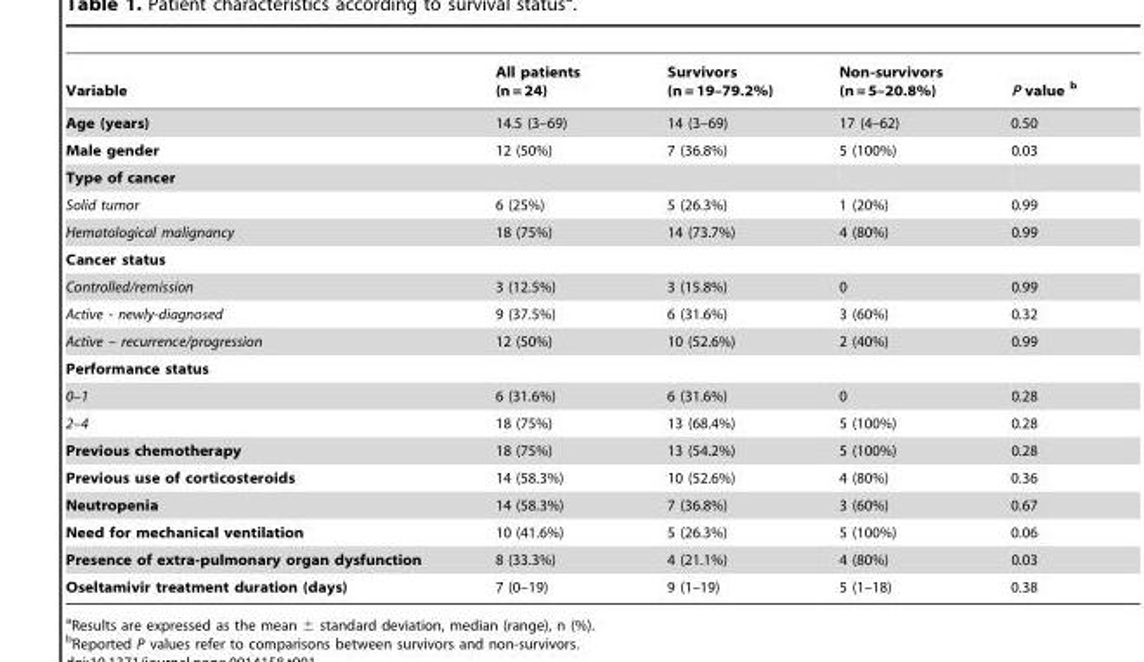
<table><thead><tr><td>Variable</td><td>All patients (n = 24)</td><td>Survivors (n = 19–79.2%)</td><td>Non-survivors (n = 5–20.8%)</td><td>P value b</td></tr></thead><tbody><tr><td>Age (years)</td><td>14.5 (3–69)</td><td>14 (3–69)</td><td>17 (4–62)</td><td>0.50</td></tr><tr><td>Male gender</td><td>12 (50%)</td><td>7 (36.8%)</td><td>5 (100%)</td><td>0.03</td></tr><tr><td colspan="5">Type of cancer</td></tr><tr><td>Solid tumor</td><td>6 (25%)</td><td>5 (26.3%)</td><td>1 (20%)</td><td>0.99</td></tr><tr><td>Hematological malignancy</td><td>18 (75%)</td><td>14 (73.7%)</td><td>4 (80%)</td><td>0.99</td></tr><tr><td colspan="5">Cancer status</td></tr><tr><td>Controlled/remission</td><td>3 (12.5%)</td><td>3 (15.8%)</td><td>0</td><td>0.99</td></tr><tr><td>Active - newly-diagnosed</td><td>9 (37.5%)</td><td>6 (31.6%)</td><td>3 (60%)</td><td>0.32</td></tr><tr><td>Active – recurrence/progression</td><td>12 (50%)</td><td>10 (52.6%)</td><td>2 (40%)</td><td>0.99</td></tr><tr><td colspan="5">Performance status</td></tr><tr><td>0–1</td><td>6 (31.6%)</td><td>6 (31.6%)</td><td>0</td><td>0.28</td></tr><tr><td>2–4</td><td>18 (75%)</td><td>13 (68.4%)</td><td>5 (100%)</td><td>0.28</td></tr><tr><td>Previous chemotherapy</td><td>18 (75%)</td><td>13 (54.2%)</td><td>5 (100%)</td><td>0.28</td></tr><tr><td>Previous use of corticosteroids</td><td>14 (58.3%)</td><td>10 (52.6%)</td><td>4 (80%)</td><td>0.36</td></tr><tr><td>Neutropenia</td><td>14 (58.3%)</td><td>7 (36.8%)</td><td>3 (60%)</td><td>0.67</td></tr><tr><td>Need for mechanical ventilation</td><td>10 (41.6%)</td><td>5 (26.3%)</td><td>5 (100%)</td><td>0.06</td></tr><tr><td>Presence of extra-pulmonary organ dysfunction</td><td>8 (33.3%)</td><td>4 (21.1%)</td><td>4 (80%)</td><td>0.03</td></tr><tr><td>Oseltamivir treatment duration (days)</td><td>7 (0–19)</td><td>9 (1–19)</td><td>5 (1–18)</td><td>0.38</td></tr></tbody></table>